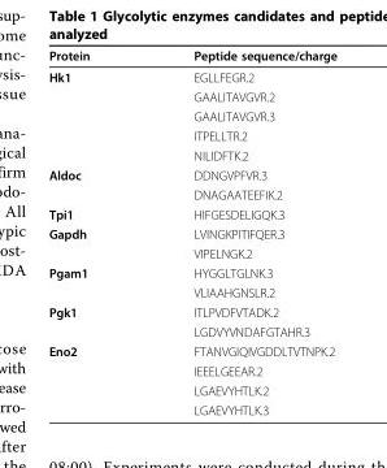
<table><thead><tr><td>Protein</td><td>Peptide sequence/charge</td></tr></thead><tbody><tr><td rowspan="5">Hk1</td><td>EGLLFEGR.2</td></tr><tr><td>GAALITAVGVR.2</td></tr><tr><td>GAALITAVGVR.3</td></tr><tr><td>ITPELLTR.2</td></tr><tr><td>NILIDFTK.2</td></tr><tr><td rowspan="2">Aldoc</td><td>DDNGVPFVR.3</td></tr><tr><td>DNAGAATEEFIK.2</td></tr><tr><td>Tpi1</td><td>HIFGESDELIGQK.3</td></tr><tr><td rowspan="2">Gapdh</td><td>LVINGKPITIFQER.3</td></tr><tr><td>VIPELNGK.2</td></tr><tr><td rowspan="2">Pgam1</td><td>HYGGLTGLNK.3</td></tr><tr><td>VLIAAHGNSLR.2</td></tr><tr><td rowspan="2">Pgk1</td><td>ITLPVDFVTADK.2</td></tr><tr><td>LGDVYVNDAFGTAHR.3</td></tr><tr><td rowspan="4">Eno2</td><td>FTANVGIQIVGDDLTVTNPK.2</td></tr><tr><td>IEEELGEEAR.2</td></tr><tr><td>LGAEVYHTLK.2</td></tr><tr><td>LGAEVYHTLK.3</td></tr></tbody></table>